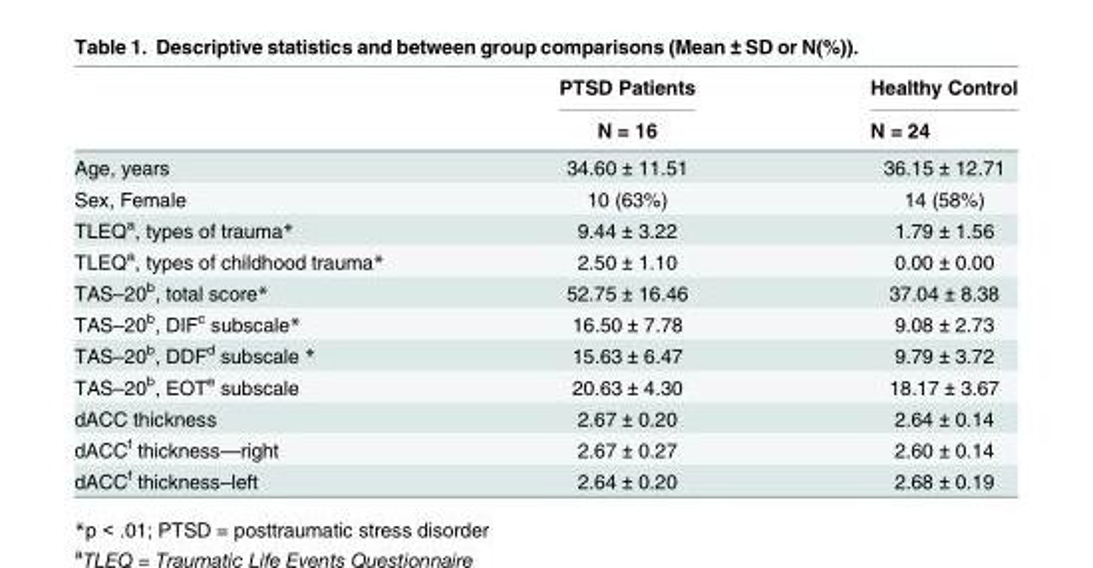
<table><thead><tr><td rowspan="2"></td><td rowspan="2">PTSD Patients N = 16</td><td rowspan="2">Healthy Control N = 24</td></tr><tr></tr></thead><tbody><tr><td>Age, years</td><td>34.60 ± 11.51</td><td>36.15 ± 12.71</td></tr><tr><td>Sex, Female</td><td>10 (63%)</td><td>14 (58%)</td></tr><tr><td>TLEQ<sup>a</sup>, types of trauma*</td><td>9.44 ± 3.22</td><td>1.79 ± 1.56</td></tr><tr><td>TLEQ<sup>a</sup>, types of childhood trauma*</td><td>2.50 ± 1.10</td><td>0.00 ± 0.00</td></tr><tr><td>TAS–20<sup>b</sup>, total score*</td><td>52.75 ± 16.46</td><td>37.04 ± 8.38</td></tr><tr><td>TAS–20<sup>b</sup>, DIF<sup>c</sup> subscale*</td><td>16.50 ± 7.78</td><td>9.08 ± 2.73</td></tr><tr><td>TAS–20<sup>b</sup>, DDF<sup>d</sup> subscale *</td><td>15.63 ± 6.47</td><td>9.79 ± 3.72</td></tr><tr><td>TAS–20<sup>b</sup>, EOT<sup>e</sup> subscale</td><td>20.63 ± 4.30</td><td>18.17 ± 3.67</td></tr><tr><td>dACC thickness</td><td>2.67 ± 0.20</td><td>2.64 ± 0.14</td></tr><tr><td>dACC<sup>f</sup> thickness—right</td><td>2.67 ± 0.27</td><td>2.60 ± 0.14</td></tr><tr><td>dACC<sup>f</sup> thickness–left</td><td>2.64 ± 0.20</td><td>2.68 ± 0.19</td></tr></tbody></table>